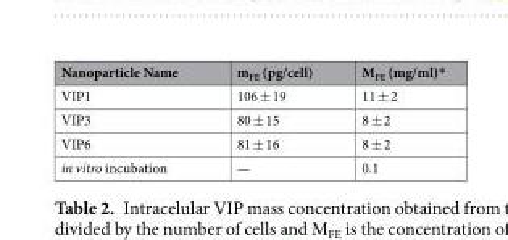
<table><thead><tr><td>Nanoparticle Name</td><td>m<sub>FE</sub> (pg/cell)</td><td>M<sub>FE</sub> (mg/ml)*</td></tr></thead><tbody><tr><td>VIP1</td><td>106 ± 19</td><td>11 ± 2</td></tr><tr><td>VIP3</td><td>80 ± 15</td><td>8 ± 2</td></tr><tr><td>VIP6</td><td>81 ± 16</td><td>8 ± 2</td></tr><tr><td>in vitro incubation</td><td>—</td><td>0.1</td></tr></tbody></table>